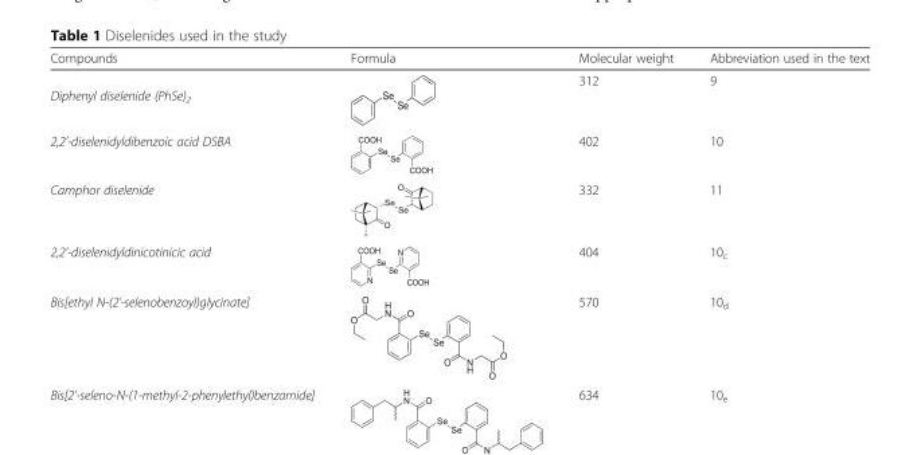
<table><thead><tr><td>Compounds</td><td>Formula</td><td>Molecular weight</td><td>Abbreviation used in the text</td></tr></thead><tbody><tr><td>Diphenyl diselenide (PhSe)<sub>2</sub></td><td></td><td>312</td><td>9</td></tr><tr><td>2,2’-diselenidyldibenzoic acid DSBA</td><td></td><td>402</td><td>10</td></tr><tr><td>Camphor diselenide</td><td></td><td>332</td><td>11</td></tr><tr><td>2,2’-diselenidyldinicotinicic acid</td><td></td><td>404</td><td>10<sub>c</sub></td></tr><tr><td>Bis[ethyl N-(2’-selenobenzoyl)glycinate]</td><td></td><td>570</td><td>10<sub>d</sub></td></tr><tr><td>Bis[2’-seleno-N-(1-methyl-2-phenylethyl)benzamide]</td><td></td><td>634</td><td>10<sub>e</sub></td></tr></tbody></table>